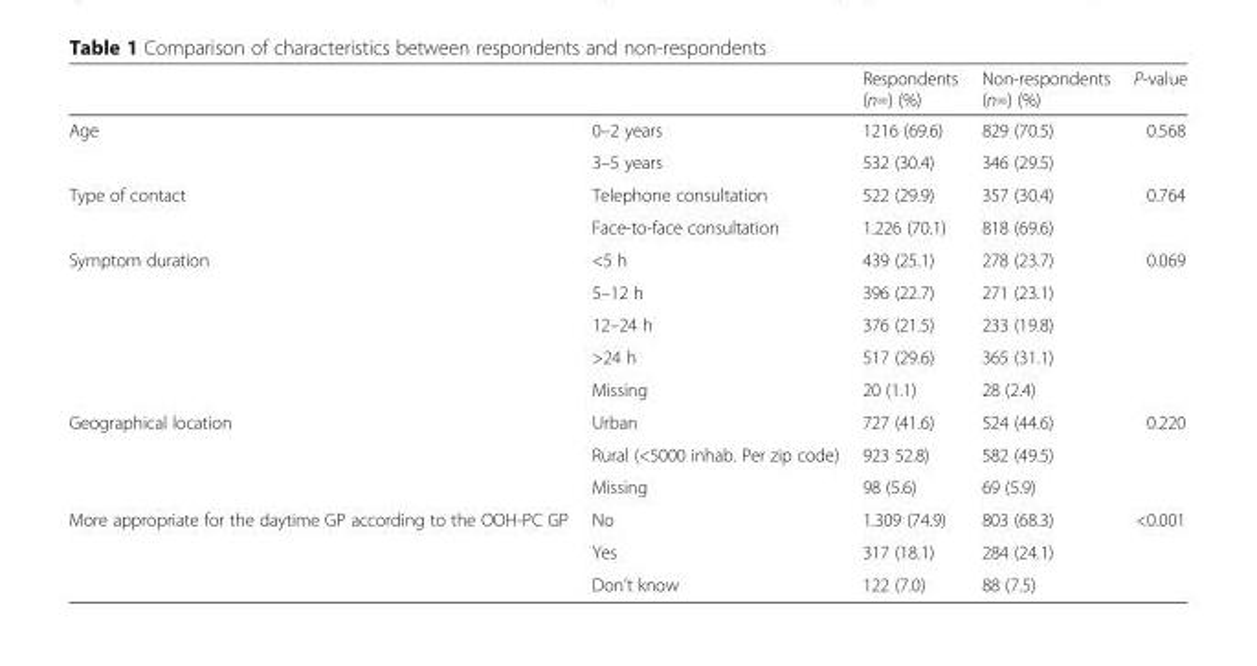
<table><thead><tr><td></td><td></td><td>Respondents (n=) (%)</td><td>Non-respondents (n=) (%)</td><td>P-value</td></tr></thead><tbody><tr><td rowspan="2">Age</td><td>0–2 years</td><td>1216 (69.6)</td><td>829 (70.5)</td><td>0.568</td></tr><tr><td>3–5 years</td><td>532 (30.4)</td><td>346 (29.5)</td><td></td></tr><tr><td rowspan="2">Type of contact</td><td>Telephone consultation</td><td>522 (29.9)</td><td>357 (30.4)</td><td>0.764</td></tr><tr><td>Face-to-face consultation</td><td>1.226 (70.1)</td><td>818 (69.6)</td><td></td></tr><tr><td rowspan="5">Symptom duration</td><td>&lt;5 h</td><td>439 (25.1)</td><td>278 (23.7)</td><td>0.069</td></tr><tr><td>5–12 h</td><td>396 (22.7)</td><td>271 (23.1)</td><td></td></tr><tr><td>12–24 h</td><td>376 (21.5)</td><td>233 (19.8)</td><td></td></tr><tr><td>&gt;24 h</td><td>517 (29.6)</td><td>365 (31.1)</td><td></td></tr><tr><td>Missing</td><td>20 (1.1)</td><td>28 (2.4)</td><td></td></tr><tr><td rowspan="3">Geographical location</td><td>Urban</td><td>727 (41.6)</td><td>524 (44.6)</td><td>0.220</td></tr><tr><td>Rural (&lt;5000 inhab. Per zip code)</td><td>923 52.8)</td><td>582 (49.5)</td><td></td></tr><tr><td>Missing</td><td>98 (5.6)</td><td>69 (5.9)</td><td></td></tr><tr><td rowspan="3">More appropriate for the daytime GP according to the OOH-PC GP</td><td>No</td><td>1.309 (74.9)</td><td>803 (68.3)</td><td>&lt;0.001</td></tr><tr><td>Yes</td><td>317 (18.1)</td><td>284 (24.1)</td><td></td></tr><tr><td>Don’t know</td><td>122 (7.0)</td><td>88 (7.5)</td><td></td></tr></tbody></table>